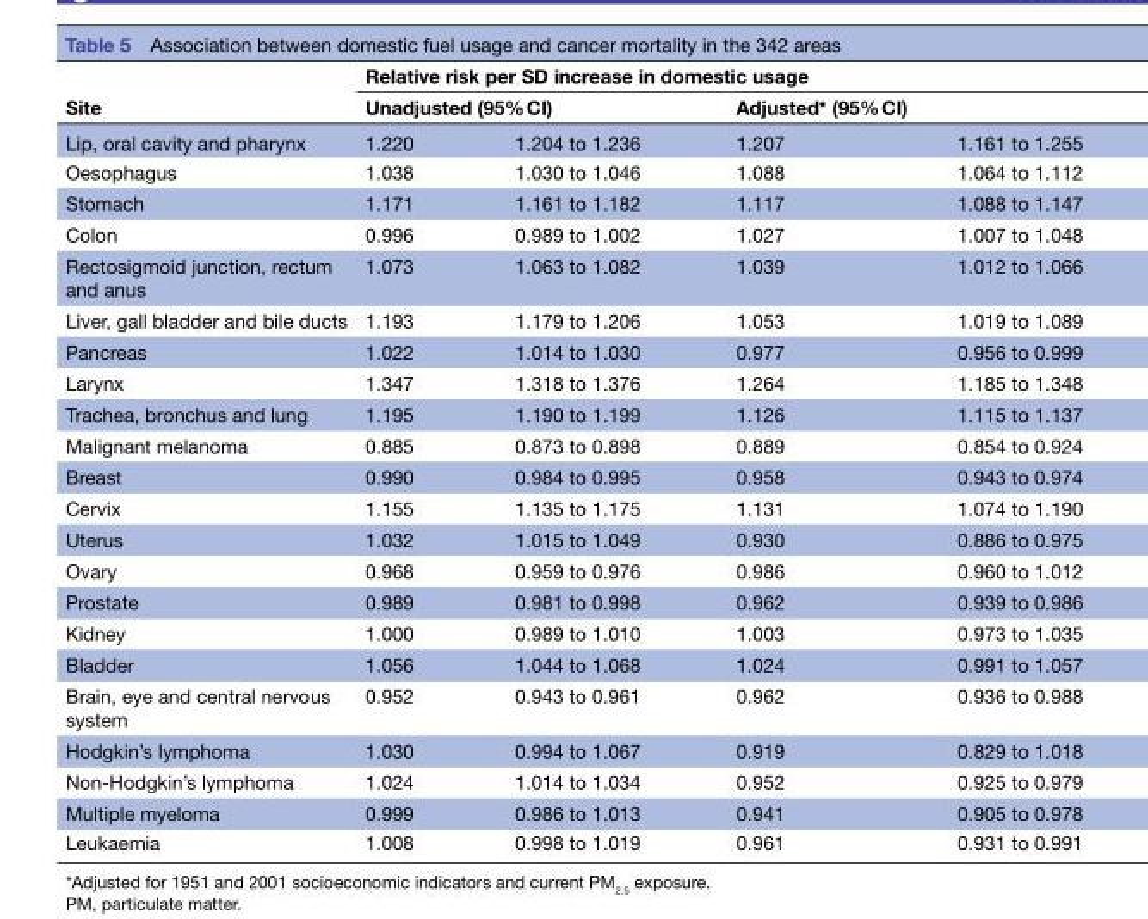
<table><thead><tr><td rowspan="3">Site Lip, oral cavity and pharynx</td><td colspan="4">Relative risk per SD increase in domestic usage</td></tr><tr><td colspan="2">Unadjusted (95% CI)</td><td colspan="2">Adjusted* (95% CI)</td></tr><tr><td>1.220</td><td>1.204 to 1.236</td><td>1.207</td><td>1.161 to 1.255</td></tr></thead><tbody><tr><td>Oesophagus</td><td>1.038</td><td>1.030 to 1.046</td><td>1.088</td><td>1.064 to 1.112</td></tr><tr><td>Stomach</td><td>1.171</td><td>1.161 to 1.182</td><td>1.117</td><td>1.088 to 1.147</td></tr><tr><td>Colon</td><td>0.996</td><td>0.989 to 1.002</td><td>1.027</td><td>1.007 to 1.048</td></tr><tr><td>Rectosigmoid junction, rectum and anus</td><td>1.073</td><td>1.063 to 1.082</td><td>1.039</td><td>1.012 to 1.066</td></tr><tr><td>Liver, gall bladder and bile ducts</td><td>1.193</td><td>1.179 to 1.206</td><td>1.053</td><td>1.019 to 1.089</td></tr><tr><td>Pancreas</td><td>1.022</td><td>1.014 to 1.030</td><td>0.977</td><td>0.956 to 0.999</td></tr><tr><td>Larynx</td><td>1.347</td><td>1.318 to 1.376</td><td>1.264</td><td>1.185 to 1.348</td></tr><tr><td>Trachea, bronchus and lung</td><td>1.195</td><td>1.190 to 1.199</td><td>1.126</td><td>1.115 to 1.137</td></tr><tr><td>Malignant melanoma</td><td>0.885</td><td>0.873 to 0.898</td><td>0.889</td><td>0.854 to 0.924</td></tr><tr><td>Breast</td><td>0.990</td><td>0.984 to 0.995</td><td>0.958</td><td>0.943 to 0.974</td></tr><tr><td>Cervix</td><td>1.155</td><td>1.135 to 1.175</td><td>1.131</td><td>1.074 to 1.190</td></tr><tr><td>Uterus</td><td>1.032</td><td>1.015 to 1.049</td><td>0.930</td><td>0.886 to 0.975</td></tr><tr><td>Ovary</td><td>0.968</td><td>0.959 to 0.976</td><td>0.986</td><td>0.960 to 1.012</td></tr><tr><td>Prostate</td><td>0.989</td><td>0.981 to 0.998</td><td>0.962</td><td>0.939 to 0.986</td></tr><tr><td>Kidney</td><td>1.000</td><td>0.989 to 1.010</td><td>1.003</td><td>0.973 to 1.035</td></tr><tr><td>Bladder</td><td>1.056</td><td>1.044 to 1.068</td><td>1.024</td><td>0.991 to 1.057</td></tr><tr><td>Brain, eye and central nervous system</td><td>0.952</td><td>0.943 to 0.961</td><td>0.962</td><td>0.936 to 0.988</td></tr><tr><td>Hodgkin’s lymphoma</td><td>1.030</td><td>0.994 to 1.067</td><td>0.919</td><td>0.829 to 1.018</td></tr><tr><td>Non-Hodgkin’s lymphoma</td><td>1.024</td><td>1.014 to 1.034</td><td>0.952</td><td>0.925 to 0.979</td></tr><tr><td>Multiple myeloma</td><td>0.999</td><td>0.986 to 1.013</td><td>0.941</td><td>0.905 to 0.978</td></tr><tr><td>Leukaemia</td><td>1.008</td><td>0.998 to 1.019</td><td>0.961</td><td>0.931 to 0.991</td></tr></tbody></table>